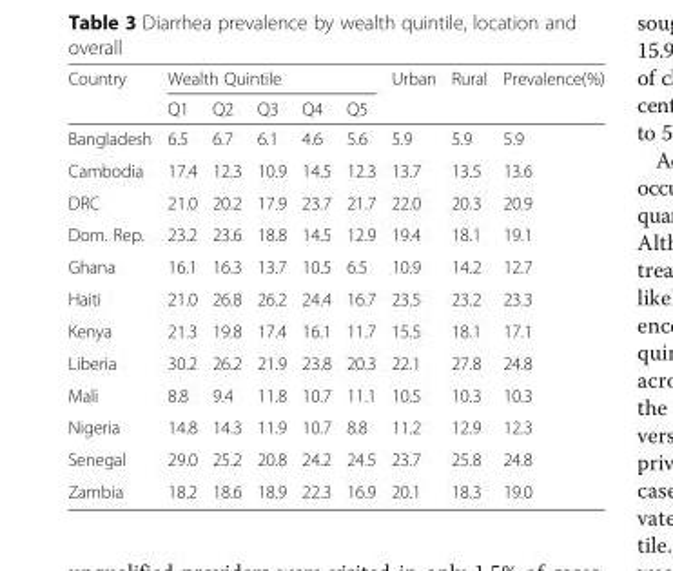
<table><thead><tr><td rowspan="2">Country</td><td colspan="5">Wealth Quintile</td><td rowspan="2">Urban</td><td rowspan="2">Rural</td><td rowspan="2">Prevalence(%)</td></tr><tr><td>Q1</td><td>Q2</td><td>Q3</td><td>Q4</td><td>Q5</td></tr></thead><tbody><tr><td>Bangladesh</td><td>6.5</td><td>6.7</td><td>6.1</td><td>4.6</td><td>5.6</td><td>5.9</td><td>5.9</td><td>5.9</td></tr><tr><td>Cambodia</td><td>17.4</td><td>12.3</td><td>10.9</td><td>14.5</td><td>12.3</td><td>13.7</td><td>13.5</td><td>13.6</td></tr><tr><td>DRC</td><td>21.0</td><td>20.2</td><td>17.9</td><td>23.7</td><td>21.7</td><td>22.0</td><td>20.3</td><td>20.9</td></tr><tr><td>Dom. Rep.</td><td>23.2</td><td>23.6</td><td>18.8</td><td>14.5</td><td>12.9</td><td>19.4</td><td>18.1</td><td>19.1</td></tr><tr><td>Ghana</td><td>16.1</td><td>16.3</td><td>13.7</td><td>10.5</td><td>6.5</td><td>10.9</td><td>14.2</td><td>12.7</td></tr><tr><td>Haiti</td><td>21.0</td><td>26.8</td><td>26.2</td><td>24.4</td><td>16.7</td><td>23.5</td><td>23.2</td><td>23.3</td></tr><tr><td>Kenya</td><td>21.3</td><td>19.8</td><td>17.4</td><td>16.1</td><td>11.7</td><td>15.5</td><td>18.1</td><td>17.1</td></tr><tr><td>Liberia</td><td>30.2</td><td>26.2</td><td>21.9</td><td>23.8</td><td>20.3</td><td>22.1</td><td>27.8</td><td>24.8</td></tr><tr><td>Mali</td><td>8.8</td><td>9.4</td><td>11.8</td><td>10.7</td><td>11.1</td><td>10.5</td><td>10.3</td><td>10.3</td></tr><tr><td>Nigeria</td><td>14.8</td><td>14.3</td><td>11.9</td><td>10.7</td><td>8.8</td><td>11.2</td><td>12.9</td><td>12.3</td></tr><tr><td>Senegal</td><td>29.0</td><td>25.2</td><td>20.8</td><td>24.2</td><td>24.5</td><td>23.7</td><td>25.8</td><td>24.8</td></tr><tr><td>Zambia</td><td>18.2</td><td>18.6</td><td>18.9</td><td>22.3</td><td>16.9</td><td>20.1</td><td>18.3</td><td>19.0</td></tr></tbody></table>